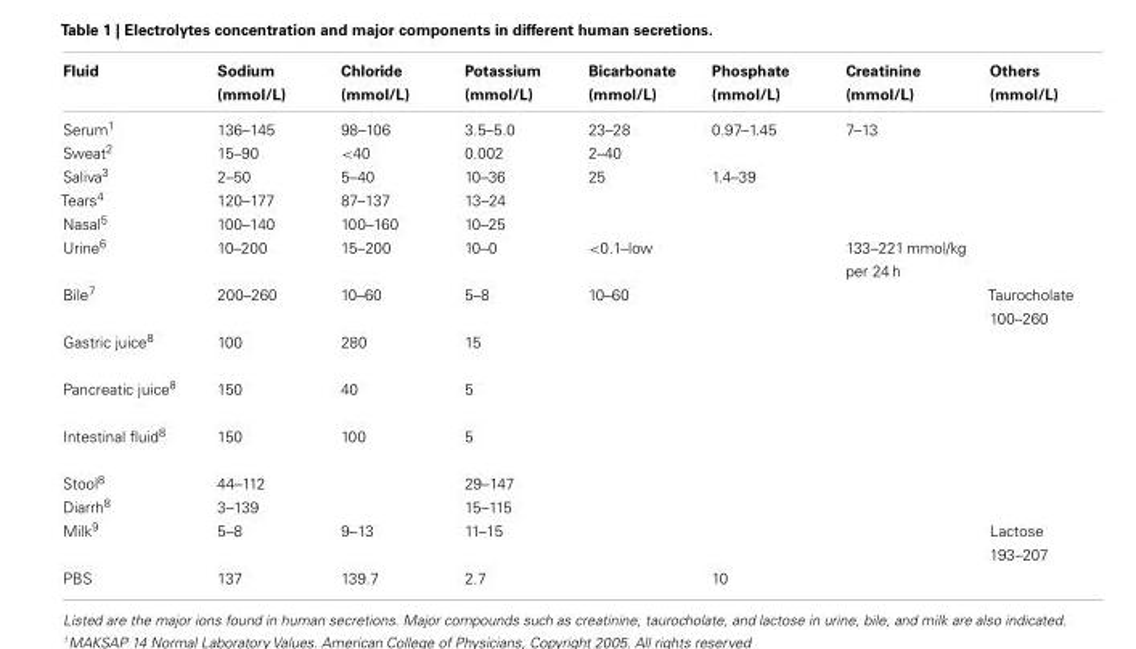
<table><thead><tr><td>Fluid</td><td>Sodium (mmol/L)</td><td>Chloride (mmol/L)</td><td>Potassium (mmol/L)</td><td>Bicarbonate (mmol/L)</td><td>Phosphate (mmol/L)</td><td>Creatinine (mmol/L)</td><td>Others (mmol/L)</td></tr></thead><tbody><tr><td>Serum<sup>1</sup></td><td>136–145</td><td>98–106</td><td>3.5–5.0</td><td>23–28</td><td>0.97–1.45</td><td>7–13</td><td></td></tr><tr><td>Sweat<sup>2</sup></td><td>15–90</td><td>&lt;40</td><td>0.002</td><td>2–40</td><td></td><td></td><td></td></tr><tr><td>Saliva<sup>3</sup></td><td>2–50</td><td>5–40</td><td>10–36</td><td>25</td><td>1.4–39</td><td></td><td></td></tr><tr><td>Tears<sup>4</sup></td><td>120–177</td><td>87–137</td><td>13–24</td><td></td><td></td><td></td><td></td></tr><tr><td>Nasal<sup>5</sup></td><td>100–140</td><td>100–160</td><td>10–25</td><td></td><td></td><td></td><td></td></tr><tr><td>Urine<sup>6</sup></td><td>10–200</td><td>15–200</td><td>10–0</td><td>&lt;0.1–low</td><td></td><td>133–221 mmol/kg per 24 h</td><td></td></tr><tr><td>Bile<sup>7</sup></td><td>200–260</td><td>10–60</td><td>5–8</td><td>10–60</td><td></td><td></td><td>Taurocholate 100–260</td></tr><tr><td>Gastric juice<sup>8</sup></td><td>100</td><td>280</td><td>15</td><td></td><td></td><td></td><td></td></tr><tr><td>Pancreatic juice<sup>8</sup></td><td>150</td><td>40</td><td>5</td><td></td><td></td><td></td><td></td></tr><tr><td>Intestinal fluid<sup>8</sup></td><td>150</td><td>100</td><td>5</td><td></td><td></td><td></td><td></td></tr><tr><td>Stool<sup>8</sup></td><td>44–112</td><td></td><td>29–147</td><td></td><td></td><td></td><td></td></tr><tr><td>Diarrh<sup>8</sup></td><td>3–139</td><td></td><td>15–115</td><td></td><td></td><td></td><td></td></tr><tr><td>Milk<sup>9</sup></td><td>5–8</td><td>9–13</td><td>11–15</td><td></td><td></td><td></td><td>Lactose 193–207</td></tr><tr><td>PBS</td><td>137</td><td>139.7</td><td>2.7</td><td></td><td>10</td><td></td><td></td></tr></tbody></table>